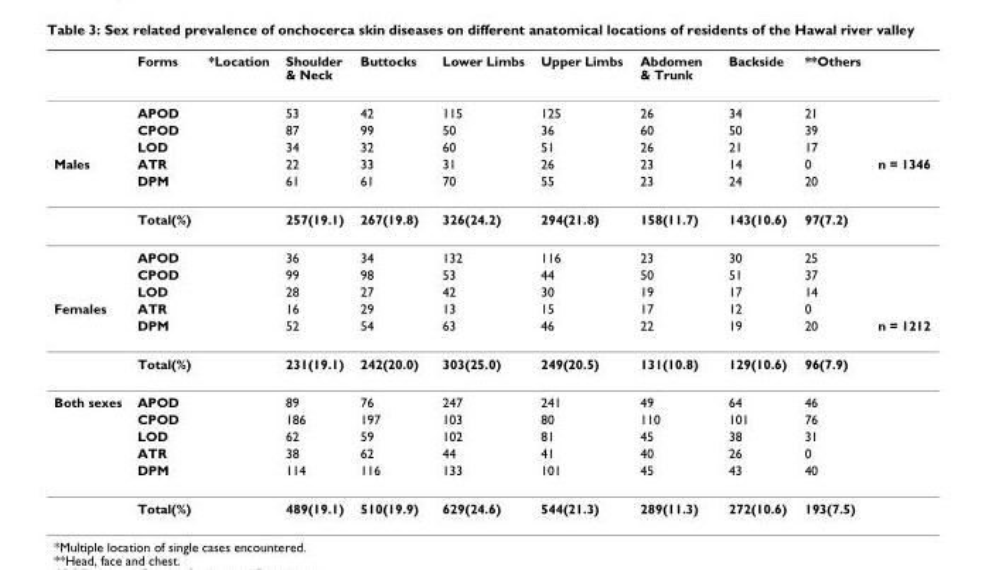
<table><thead><tr><td></td><td>Forms</td><td>*Location</td><td>Shoulder &amp; Neck</td><td>Buttocks</td><td>Lower Limbs</td><td>Upper Limbs</td><td>Abdomen &amp; Trunk</td><td>Backside</td><td>**Others</td><td></td></tr></thead><tbody><tr><td></td><td>APOD</td><td></td><td>53</td><td>42</td><td>115</td><td>125</td><td>26</td><td>34</td><td>21</td><td></td></tr><tr><td></td><td>CPOD</td><td></td><td>87</td><td>99</td><td>50</td><td>36</td><td>60</td><td>50</td><td>39</td><td></td></tr><tr><td></td><td>LOD</td><td></td><td>34</td><td>32</td><td>60</td><td>51</td><td>26</td><td>21</td><td>17</td><td></td></tr><tr><td rowspan="6">Males</td><td>ATR</td><td></td><td>22</td><td>33</td><td>31</td><td>26</td><td>23</td><td>14</td><td>0</td><td>n = 1346</td></tr><tr><td>DPM</td><td></td><td>61</td><td>61</td><td>70</td><td>55</td><td>23</td><td>24</td><td>20</td><td></td></tr><tr><td>Total(%)</td><td></td><td>257(19.1)</td><td>267(19.8)</td><td>326(24.2)</td><td>294(21.8)</td><td>158(11.7)</td><td>143(10.6)</td><td>97(7.2)</td><td></td></tr><tr><td>APOD</td><td></td><td>36</td><td>34</td><td>132</td><td>116</td><td>23</td><td>30</td><td>25</td><td></td></tr><tr><td>CPOD</td><td></td><td>99</td><td>98</td><td>53</td><td>44</td><td>50</td><td>51</td><td>37</td><td></td></tr><tr><td>LOD</td><td></td><td>28</td><td>27</td><td>42</td><td>30</td><td>19</td><td>17</td><td>14</td><td></td></tr><tr><td rowspan="3">Females</td><td>ATR</td><td></td><td>16</td><td>29</td><td>13</td><td>15</td><td>17</td><td>12</td><td>0</td><td></td></tr><tr><td>DPM</td><td></td><td>52</td><td>54</td><td>63</td><td>46</td><td>22</td><td>19</td><td>20</td><td>n = 1212</td></tr><tr><td>Total(%)</td><td></td><td>231(19.1)</td><td>242(20.0)</td><td>303(25.0)</td><td>249(20.5)</td><td>131(10.8)</td><td>129(10.6)</td><td>96(7.9)</td><td></td></tr><tr><td rowspan="6">Both sexes</td><td>APOD</td><td></td><td>89</td><td>76</td><td>247</td><td>241</td><td>49</td><td>64</td><td>46</td><td></td></tr><tr><td>CPOD</td><td></td><td>186</td><td>197</td><td>103</td><td>80</td><td>110</td><td>101</td><td>76</td><td></td></tr><tr><td>LOD</td><td></td><td>62</td><td>59</td><td>102</td><td>81</td><td>45</td><td>38</td><td>31</td><td></td></tr><tr><td>ATR</td><td></td><td>38</td><td>62</td><td>44</td><td>41</td><td>40</td><td>26</td><td>0</td><td></td></tr><tr><td>DPM</td><td></td><td>114</td><td>116</td><td>133</td><td>101</td><td>45</td><td>43</td><td>40</td><td></td></tr><tr><td>Total(%)</td><td></td><td>489(19.1)</td><td>510(19.9)</td><td>629(24.6)</td><td>544(21.3)</td><td>289(11.3)</td><td>272(10.6)</td><td>193(7.5)</td><td></td></tr></tbody></table>